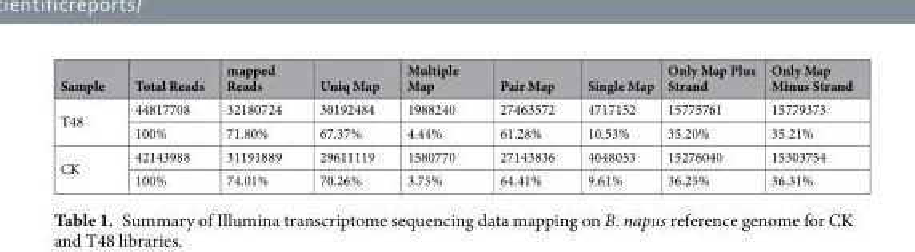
<table><thead><tr><td>Sample</td><td>Total Reads</td><td>mapped Reads</td><td>Uniq Map</td><td>Multiple Map</td><td>Pair Map</td><td>Single Map</td><td>Only Map Plus Strand</td><td>Only Map Minus Strand</td></tr></thead><tbody><tr><td rowspan="2">T48</td><td>44817708</td><td>32180724</td><td>30192484</td><td>1988240</td><td>27463572</td><td>4717152</td><td>15775761</td><td>15779373</td></tr><tr><td>100%</td><td>71.80%</td><td>67.37%</td><td>4.44%</td><td>61.28%</td><td>10.53%</td><td>35.20%</td><td>35.21%</td></tr><tr><td rowspan="2">CK</td><td>42143988</td><td>31191889</td><td>29611119</td><td>1580770</td><td>27143836</td><td>4048053</td><td>15276040</td><td>15303754</td></tr><tr><td>100%</td><td>74.01%</td><td>70.26%</td><td>3.75%</td><td>64.41%</td><td>9.61%</td><td>36.25%</td><td>36.31%</td></tr></tbody></table>